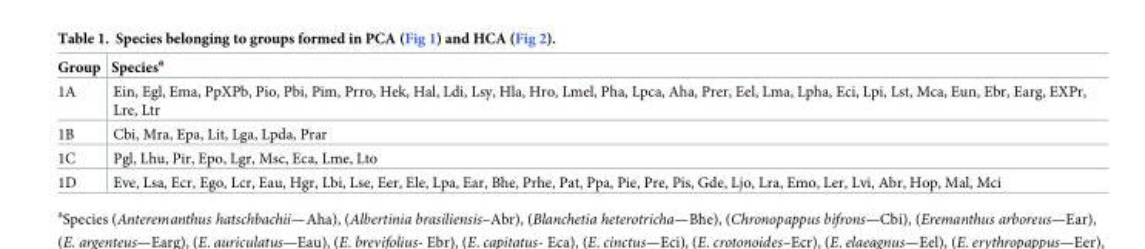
<table><thead><tr><td>Group</td><td>Species<sup>a</sup></td></tr></thead><tbody><tr><td>1A</td><td>Ein, Egl, Ema, PpXPb, Pio, Pbi, Pim, Prro, Hek, Hal, Ldi, Lsy, Hla, Hro, Lmel, Pha, Lpca, Aha, Prer, Eel, Lma, Lpha, Eci, Lpi, Lst, Mca, Eun, Ebr, Earg, EXPr, Lre, Ltr</td></tr><tr><td>1B</td><td>Cbi, Mra, Epa, Lit, Lga, Lpda, Prar</td></tr><tr><td>1C</td><td>Pgl, Lhu, Pir, Epo, Lgr, Msc, Eca, Lme, Lto</td></tr><tr><td>1D</td><td>Eve, Lsa, Ecr, Ego, Lcr, Eau, Hgr, Lbi, Lse, Eer, Ele, Lpa, Ear, Bhe, Prhe, Pat, Ppa, Pie, Pre, Pis, Gde, Ljo, Lra, Emo, Ler, Lvi, Abr, Hop, Mal, Mci</td></tr></tbody></table>